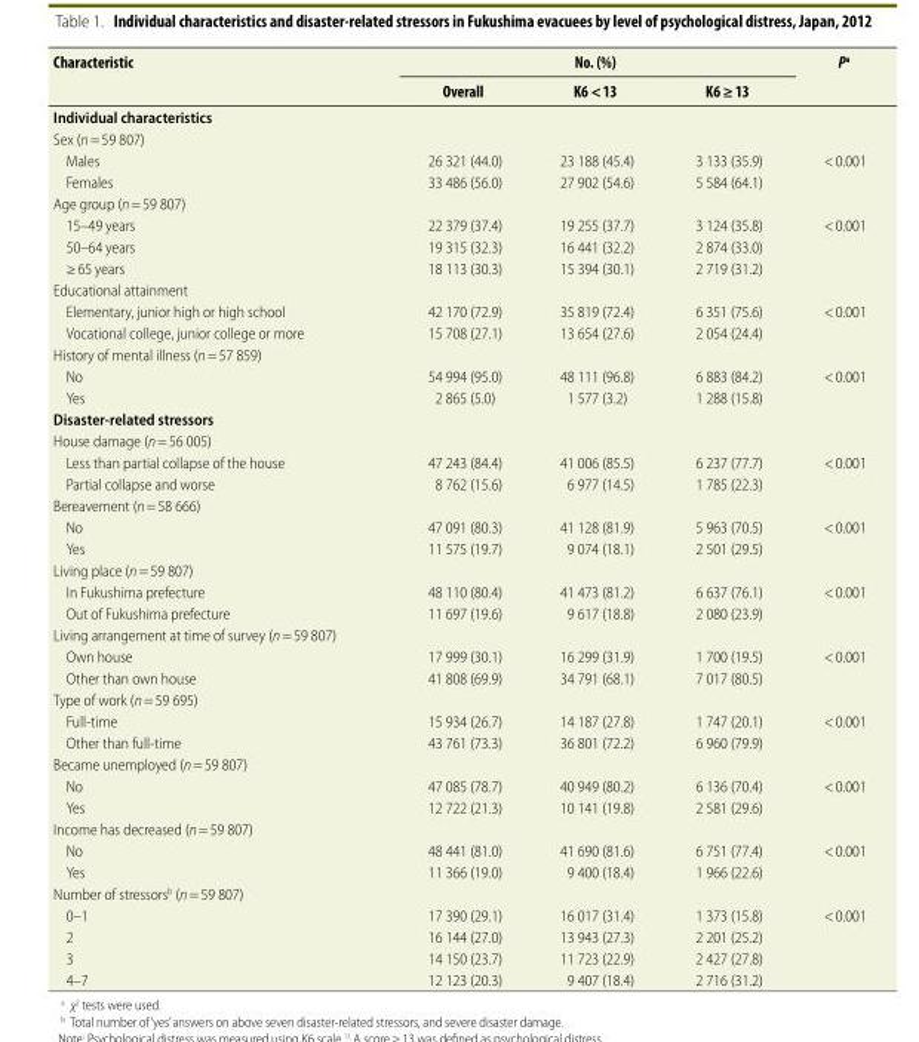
<table><thead><tr><td rowspan="2">Characteristic</td><td colspan="3">No. (%)</td><td rowspan="2">P<sup>a</sup></td></tr><tr><td>Overall</td><td>K6 &lt; 13</td><td>K6 ≥ 13</td></tr></thead><tbody><tr><td colspan="5">Individual characteristics</td></tr><tr><td colspan="5">Sex (n = 59 807)</td></tr><tr><td>Males</td><td>26 321 (44.0)</td><td>23 188 (45.4)</td><td>3 133 (35.9)</td><td>&lt; 0.001</td></tr><tr><td>Females</td><td>33 486 (56.0)</td><td>27 902 (54.6)</td><td>5 584 (64.1)</td><td></td></tr><tr><td colspan="5">Age group (n = 59 807)</td></tr><tr><td>15–49 years</td><td>22 379 (37.4)</td><td>19 255 (37.7)</td><td>3 124 (35.8)</td><td>&lt; 0.001</td></tr><tr><td>50–64 years</td><td>19 315 (32.3)</td><td>16 441 (32.2)</td><td>2 874 (33.0)</td><td></td></tr><tr><td>≥ 65 years</td><td>18 113 (30.3)</td><td>15 394 (30.1)</td><td>2 719 (31.2)</td><td></td></tr><tr><td colspan="5">Educational attainment</td></tr><tr><td>Elementary, junior high or high school</td><td>42 170 (72.9)</td><td>35 819 (72.4)</td><td>6 351 (75.6)</td><td>&lt; 0.001</td></tr><tr><td>Vocational college, junior college or more</td><td>15 708 (27.1)</td><td>13 654 (27.6)</td><td>2 054 (24.4)</td><td></td></tr><tr><td colspan="5">History of mental illness (n = 57 859)</td></tr><tr><td>No</td><td>54 994 (95.0)</td><td>48 111 (96.8)</td><td>6 883 (84.2)</td><td>&lt; 0.001</td></tr><tr><td>Yes</td><td>2 865 (5.0)</td><td>1 577 (3.2)</td><td>1 288 (15.8)</td><td></td></tr><tr><td colspan="5">Disaster-related stressors</td></tr><tr><td colspan="5">House damage (n = 56 005)</td></tr><tr><td>Less than partial collapse of the house</td><td>47 243 (84.4)</td><td>41 006 (85.5)</td><td>6 237 (77.7)</td><td>&lt; 0.001</td></tr><tr><td>Partial collapse and worse</td><td>8 762 (15.6)</td><td>6 977 (14.5)</td><td>1 785 (22.3)</td><td></td></tr><tr><td colspan="5">Bereavement (n = 58 666)</td></tr><tr><td>No</td><td>47 091 (80.3)</td><td>41 128 (81.9)</td><td>5 963 (70.5)</td><td>&lt; 0.001</td></tr><tr><td>Yes</td><td>11 575 (19.7)</td><td>9 074 (18.1)</td><td>2 501 (29.5)</td><td></td></tr><tr><td colspan="5">Living place (n = 59 807)</td></tr><tr><td>In Fukushima prefecture</td><td>48 110 (80.4)</td><td>41 473 (81.2)</td><td>6 637 (76.1)</td><td>&lt; 0.001</td></tr><tr><td>Out of Fukushima prefecture</td><td>11 697 (19.6)</td><td>9 617 (18.8)</td><td>2 080 (23.9)</td><td></td></tr><tr><td colspan="5">Living arrangement at time of survey (n = 59 807)</td></tr><tr><td>Own house</td><td>17 999 (30.1)</td><td>16 299 (31.9)</td><td>1 700 (19.5)</td><td>&lt; 0.001</td></tr><tr><td>Other than own house</td><td>41 808 (69.9)</td><td>34 791 (68.1)</td><td>7 017 (80.5)</td><td></td></tr><tr><td colspan="5">Type of work (n = 59 695)</td></tr><tr><td>Full-time</td><td>15 934 (26.7)</td><td>14 187 (27.8)</td><td>1 747 (20.1)</td><td>&lt; 0.001</td></tr><tr><td>Other than full-time</td><td>43 761 (73.3)</td><td>36 801 (72.2)</td><td>6 960 (79.9)</td><td></td></tr><tr><td colspan="5">Became unemployed (n = 59 807)</td></tr><tr><td>No</td><td>47 085 (78.7)</td><td>40 949 (80.2)</td><td>6 136 (70.4)</td><td>&lt; 0.001</td></tr><tr><td>Yes</td><td>12 722 (21.3)</td><td>10 141 (19.8)</td><td>2 581 (29.6)</td><td></td></tr><tr><td colspan="5">Income has decreased (n = 59 807)</td></tr><tr><td>No</td><td>48 441 (81.0)</td><td>41 690 (81.6)</td><td>6 751 (77.4)</td><td>&lt; 0.001</td></tr><tr><td>Yes</td><td>11 366 (19.0)</td><td>9 400 (18.4)</td><td>1 966 (22.6)</td><td></td></tr><tr><td colspan="5">Number of stressors<sup>b</sup> (n = 59 807)</td></tr><tr><td>0–1</td><td>17 390 (29.1)</td><td>16 017 (31.4)</td><td>1 373 (15.8)</td><td>&lt; 0.001</td></tr><tr><td>2</td><td>16 144 (27.0)</td><td>13 943 (27.3)</td><td>2 201 (25.2)</td><td></td></tr><tr><td>3</td><td>14 150 (23.7)</td><td>11 723 (22.9)</td><td>2 427 (27.8)</td><td></td></tr><tr><td>4–7</td><td>12 123 (20.3)</td><td>9 407 (18.4)</td><td>2 716 (31.2)</td><td></td></tr></tbody></table>